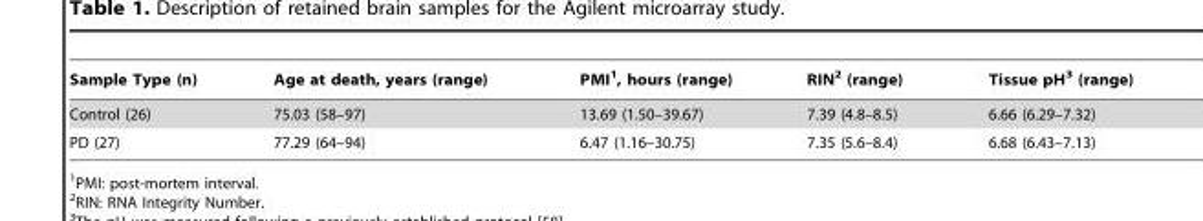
<table><thead><tr><td>Sample Type (n)</td><td>Age at death, years (range)</td><td>PMI<sup>1</sup>, hours (range)</td><td>RIN<sup>2</sup> (range)</td><td>Tissue pH<sup>3</sup> (range)</td></tr></thead><tbody><tr><td>Control (26)</td><td>75.03 (58–97)</td><td>13.69 (1.50–39.67)</td><td>7.39 (4.8–8.5)</td><td>6.66 (6.29–7.32)</td></tr><tr><td>PD (27)</td><td>77.29 (64–94)</td><td>6.47 (1.16–30.75)</td><td>7.35 (5.6–8.4)</td><td>6.68 (6.43–7.13)</td></tr></tbody></table>